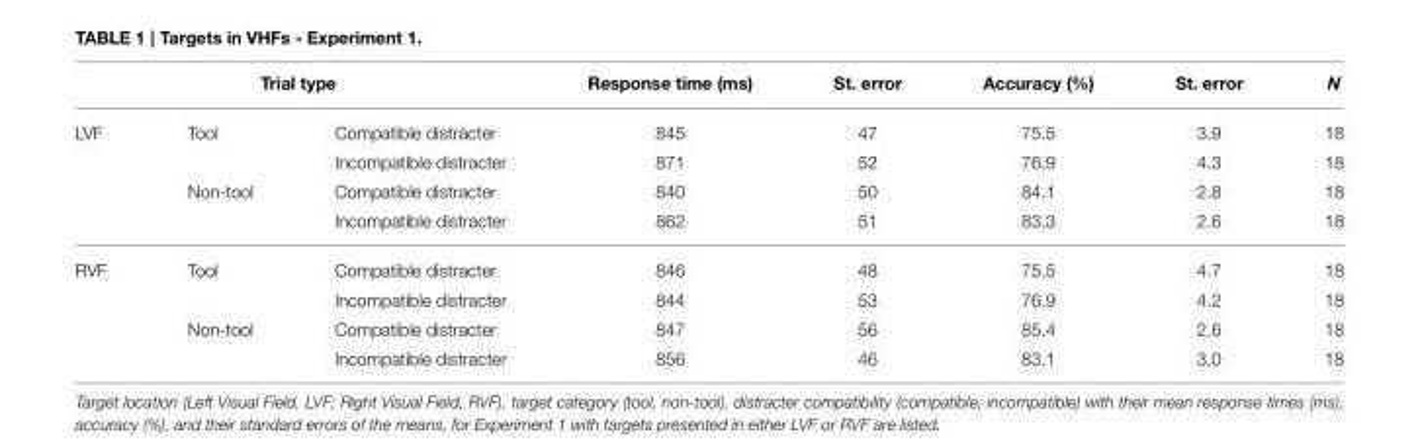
<table><thead><tr><td colspan="3">Trial type</td><td rowspan="2">Response time (ms) 845</td><td rowspan="2">St. error 47</td><td rowspan="2">Accuracy (%) 75.5</td><td rowspan="2">St. error 3.9</td><td rowspan="2">N 18</td></tr><tr><td>LVF</td><td>Tool</td><td>Compatible distracter</td></tr></thead><tbody><tr><td></td><td></td><td>Incompatible distracter</td><td>871</td><td>52</td><td>76.9</td><td>4.3</td><td>18</td></tr><tr><td></td><td>Non-tool</td><td>Compatible distracter</td><td>840</td><td>50</td><td>84.1</td><td>2.8</td><td>18</td></tr><tr><td></td><td></td><td>Incompatible distracter</td><td>862</td><td>51</td><td>83.3</td><td>2.6</td><td>18</td></tr><tr><td rowspan="4">RVF</td><td>Tool</td><td>Compatible distracter</td><td>846</td><td>48</td><td>75.5</td><td>4.7</td><td>18</td></tr><tr><td></td><td>Incompatible distracter</td><td>844</td><td>53</td><td>76.9</td><td>4.2</td><td>18</td></tr><tr><td>Non-tool</td><td>Compatible distracter</td><td>847</td><td>56</td><td>85.4</td><td>2.6</td><td>18</td></tr><tr><td></td><td>Incompatible distracter</td><td>856</td><td>46</td><td>83.1</td><td>3.0</td><td>18</td></tr></tbody></table>